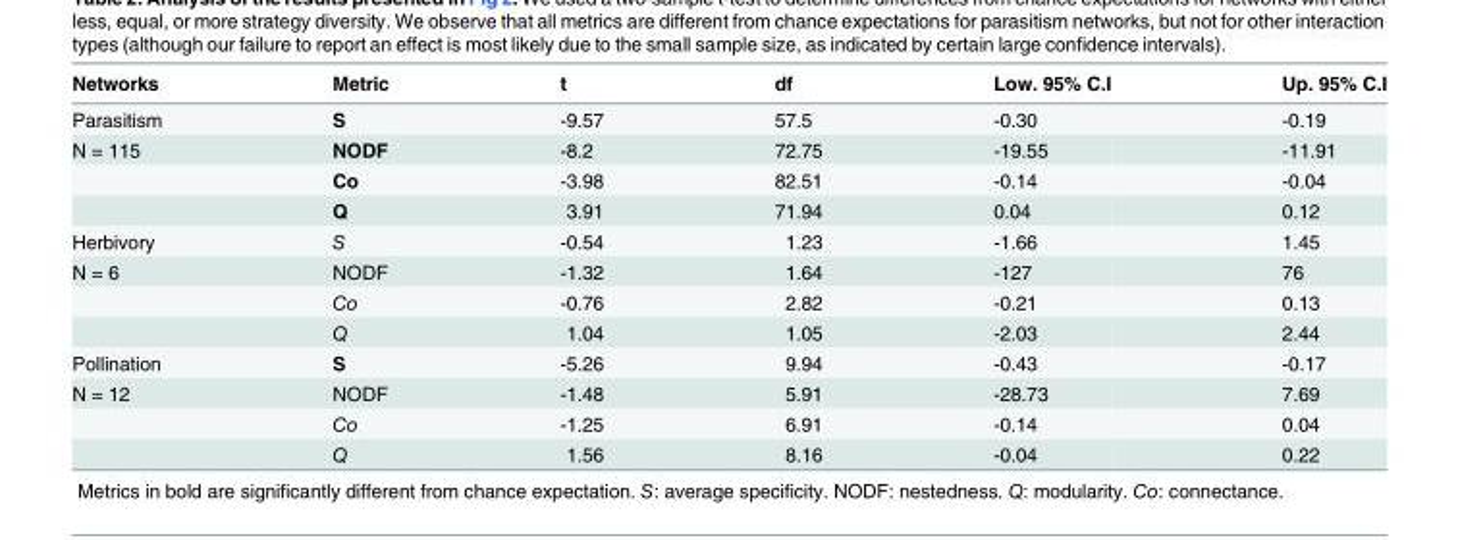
<table><thead><tr><td>Networks</td><td>Metric</td><td>t</td><td>df</td><td>Low. 95% C.I</td><td>Up. 95% C.I</td></tr></thead><tbody><tr><td>Parasitism</td><td>S</td><td>-9.57</td><td>57.5</td><td>-0.30</td><td>-0.19</td></tr><tr><td rowspan="3">N = 115</td><td>NODF</td><td>-8.2</td><td>72.75</td><td>-19.55</td><td>-11.91</td></tr><tr><td>Co</td><td>-3.98</td><td>82.51</td><td>-0.14</td><td>-0.04</td></tr><tr><td>Q</td><td>3.91</td><td>71.94</td><td>0.04</td><td>0.12</td></tr><tr><td>Herbivory</td><td>S</td><td>-0.54</td><td>1.23</td><td>-1.66</td><td>1.45</td></tr><tr><td rowspan="3">N = 6</td><td>NODF</td><td>-1.32</td><td>1.64</td><td>-127</td><td>76</td></tr><tr><td>Co</td><td>-0.76</td><td>2.82</td><td>-0.21</td><td>0.13</td></tr><tr><td>Q</td><td>1.04</td><td>1.05</td><td>-2.03</td><td>2.44</td></tr><tr><td>Pollination</td><td>S</td><td>-5.26</td><td>9.94</td><td>-0.43</td><td>-0.17</td></tr><tr><td rowspan="3">N = 12</td><td>NODF</td><td>-1.48</td><td>5.91</td><td>-28.73</td><td>7.69</td></tr><tr><td>Co</td><td>-1.25</td><td>6.91</td><td>-0.14</td><td>0.04</td></tr><tr><td>Q</td><td>1.56</td><td>8.16</td><td>-0.04</td><td>0.22</td></tr></tbody></table>